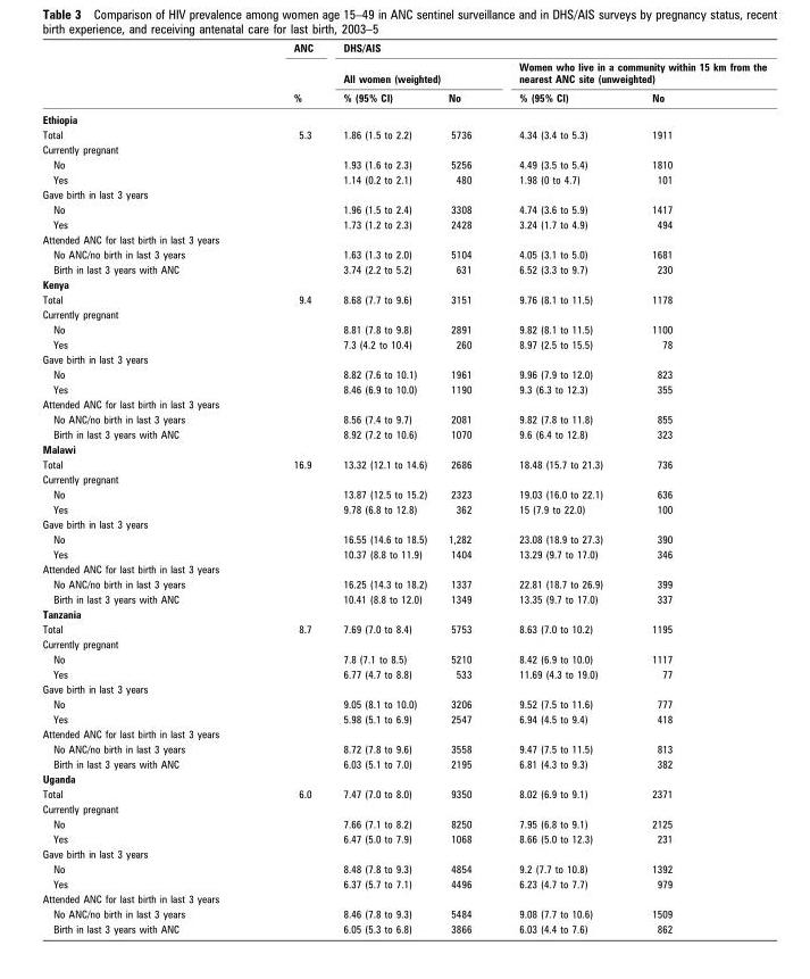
<table><thead><tr><td rowspan="3"></td><td rowspan="3">ANC %</td><td colspan="4">DHS/AIS</td></tr><tr><td colspan="2">All women (weighted)</td><td colspan="2">Women who live in a community within 15 km from the nearest ANC site (unweighted)</td></tr><tr><td>% (95% CI)</td><td>No</td><td>% (95% CI)</td><td>No</td></tr></thead><tbody><tr><td colspan="6">Ethiopia</td></tr><tr><td>Total</td><td>5.3</td><td>1.86 (1.5 to 2.2)</td><td>5736</td><td>4.34 (3.4 to 5.3)</td><td>1911</td></tr><tr><td colspan="6">Currently pregnant</td></tr><tr><td>No</td><td></td><td>1.93 (1.6 to 2.3)</td><td>5256</td><td>4.49 (3.5 to 5.4)</td><td>1810</td></tr><tr><td>Yes</td><td></td><td>1.14 (0.2 to 2.1)</td><td>480</td><td>1.98 (0 to 4.7)</td><td>101</td></tr><tr><td colspan="6">Gave birth in last 3 years</td></tr><tr><td>No</td><td></td><td>1.96 (1.5 to 2.4)</td><td>3308</td><td>4.74 (3.6 to 5.9)</td><td>1417</td></tr><tr><td>Yes</td><td></td><td>1.73 (1.2 to 2.3)</td><td>2428</td><td>3.24 (1.7 to 4.9)</td><td>494</td></tr><tr><td colspan="6">Attended ANC for last birth in last 3 years</td></tr><tr><td>No ANC/no birth in last 3 years</td><td></td><td>1.63 (1.3 to 2.0)</td><td>5104</td><td>4.05 (3.1 to 5.0)</td><td>1681</td></tr><tr><td>Birth in last 3 years with ANC</td><td></td><td>3.74 (2.2 to 5.2)</td><td>631</td><td>6.52 (3.3 to 9.7)</td><td>230</td></tr><tr><td colspan="6">Kenya</td></tr><tr><td>Total</td><td>9.4</td><td>8.68 (7.7 to 9.6)</td><td>3151</td><td>9.76 (8.1 to 11.5)</td><td>1178</td></tr><tr><td colspan="6">Currently pregnant</td></tr><tr><td>No</td><td></td><td>8.81 (7.8 to 9.8)</td><td>2891</td><td>9.82 (8.1 to 11.5)</td><td>1100</td></tr><tr><td>Yes</td><td></td><td>7.3 (4.2 to 10.4)</td><td>260</td><td>8.97 (2.5 to 15.5)</td><td>78</td></tr><tr><td colspan="6">Gave birth in last 3 years</td></tr><tr><td>No</td><td></td><td>8.82 (7.6 to 10.1)</td><td>1961</td><td>9.96 (7.9 to 12.0)</td><td>823</td></tr><tr><td>Yes</td><td></td><td>8.46 (6.9 to 10.0)</td><td>1190</td><td>9.3 (6.3 to 12.3)</td><td>355</td></tr><tr><td colspan="6">Attended ANC for last birth in last 3 years</td></tr><tr><td>No ANC/no birth in last 3 years</td><td></td><td>8.56 (7.4 to 9.7)</td><td>2081</td><td>9.82 (7.8 to 11.8)</td><td>855</td></tr><tr><td>Birth in last 3 years with ANC</td><td></td><td>8.92 (7.2 to 10.6)</td><td>1070</td><td>9.6 (6.4 to 12.8)</td><td>323</td></tr><tr><td colspan="6">Malawi</td></tr><tr><td>Total</td><td>16.9</td><td>13.32 (12.1 to 14.6)</td><td>2686</td><td>18.48 (15.7 to 21.3)</td><td>736</td></tr><tr><td colspan="6">Currently pregnant</td></tr><tr><td>No</td><td></td><td>13.87 (12.5 to 15.2)</td><td>2323</td><td>19.03 (16.0 to 22.1)</td><td>636</td></tr><tr><td>Yes</td><td></td><td>9.78 (6.8 to 12.8)</td><td>362</td><td>15 (7.9 to 22.0)</td><td>100</td></tr><tr><td colspan="6">Gave birth in last 3 years</td></tr><tr><td>No</td><td></td><td>16.55 (14.6 to 18.5)</td><td>1,282</td><td>23.08 (18.9 to 27.3)</td><td>390</td></tr><tr><td>Yes</td><td></td><td>10.37 (8.8 to 11.9)</td><td>1404</td><td>13.29 (9.7 to 17.0)</td><td>346</td></tr><tr><td colspan="6">Attended ANC for last birth in last 3 years</td></tr><tr><td>No ANC/no birth in last 3 years</td><td></td><td>16.25 (14.3 to 18.2)</td><td>1337</td><td>22.81 (18.7 to 26.9)</td><td>399</td></tr><tr><td>Birth in last 3 years with ANC</td><td></td><td>10.41 (8.8 to 12.0)</td><td>1349</td><td>13.35 (9.7 to 17.0)</td><td>337</td></tr><tr><td colspan="6">Tanzania</td></tr><tr><td>Total</td><td>8.7</td><td>7.69 (7.0 to 8.4)</td><td>5753</td><td>8.63 (7.0 to 10.2)</td><td>1195</td></tr><tr><td colspan="6">Currently pregnant</td></tr><tr><td>No</td><td></td><td>7.8 (7.1 to 8.5)</td><td>5210</td><td>8.42 (6.9 to 10.0)</td><td>1117</td></tr><tr><td>Yes</td><td></td><td>6.77 (4.7 to 8.8)</td><td>533</td><td>11.69 (4.3 to 19.0)</td><td>77</td></tr><tr><td colspan="6">Gave birth in last 3 years</td></tr><tr><td>No</td><td></td><td>9.05 (8.1 to 10.0)</td><td>3206</td><td>9.52 (7.5 to 11.6)</td><td>777</td></tr><tr><td>Yes</td><td></td><td>5.98 (5.1 to 6.9)</td><td>2547</td><td>6.94 (4.5 to 9.4)</td><td>418</td></tr><tr><td colspan="6">Attended ANC for last birth in last 3 years</td></tr><tr><td>No ANC/no birth in last 3 years</td><td></td><td>8.72 (7.8 to 9.6)</td><td>3558</td><td>9.47 (7.5 to 11.5)</td><td>813</td></tr><tr><td>Birth in last 3 years with ANC</td><td></td><td>6.03 (5.1 to 7.0)</td><td>2195</td><td>6.81 (4.3 to 9.3)</td><td>382</td></tr><tr><td colspan="6">Uganda</td></tr><tr><td>Total</td><td>6.0</td><td>7.47 (7.0 to 8.0)</td><td>9350</td><td>8.02 (6.9 to 9.1)</td><td>2371</td></tr><tr><td colspan="6">Currently pregnant</td></tr><tr><td>No</td><td></td><td>7.66 (7.1 to 8.2)</td><td>8250</td><td>7.95 (6.8 to 9.1)</td><td>2125</td></tr><tr><td>Yes</td><td></td><td>6.47 (5.0 to 7.9)</td><td>1068</td><td>8.66 (5.0 to 12.3)</td><td>231</td></tr><tr><td colspan="6">Gave birth in last 3 years</td></tr><tr><td>No</td><td></td><td>8.48 (7.8 to 9.3)</td><td>4854</td><td>9.2 (7.7 to 10.8)</td><td>1392</td></tr><tr><td>Yes</td><td></td><td>6.37 (5.7 to 7.1)</td><td>4496</td><td>6.23 (4.7 to 7.7)</td><td>979</td></tr><tr><td colspan="6">Attended ANC for last birth in last 3 years</td></tr><tr><td>No ANC/no birth in last 3 years</td><td></td><td>8.46 (7.8 to 9.3)</td><td>5484</td><td>9.08 (7.7 to 10.6)</td><td>1509</td></tr><tr><td>Birth in last 3 years with ANC</td><td></td><td>6.05 (5.3 to 6.8)</td><td>3866</td><td>6.03 (4.4 to 7.6)</td><td>862</td></tr></tbody></table>